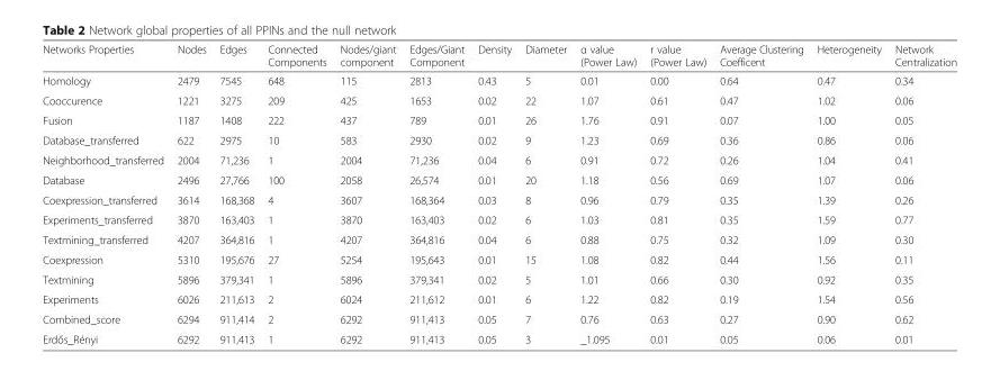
<table><thead><tr><td>Networks Properties</td><td>Nodes</td><td>Edges</td><td>Connected Components</td><td>Nodes/giant component</td><td>Edges/Giant Component</td><td>Density</td><td>Diameter</td><td>α value (Power Law)</td><td>r value (Power Law)</td><td>Average Clustering Coefficent</td><td>Heterogeneity</td><td>Network Centralization</td></tr></thead><tbody><tr><td>Homology</td><td>2479</td><td>7545</td><td>648</td><td>115</td><td>2813</td><td>0.43</td><td>5</td><td>0.01</td><td>0.00</td><td>0.64</td><td>0.47</td><td>0.34</td></tr><tr><td>Cooccurence</td><td>1221</td><td>3275</td><td>209</td><td>425</td><td>1653</td><td>0.02</td><td>22</td><td>1.07</td><td>0.61</td><td>0.47</td><td>1.02</td><td>0.06</td></tr><tr><td>Fusion</td><td>1187</td><td>1408</td><td>222</td><td>437</td><td>789</td><td>0.01</td><td>26</td><td>1.76</td><td>0.91</td><td>0.07</td><td>1.00</td><td>0.05</td></tr><tr><td>Database_transferred</td><td>622</td><td>2975</td><td>10</td><td>583</td><td>2930</td><td>0.02</td><td>9</td><td>1.23</td><td>0.69</td><td>0.36</td><td>0.86</td><td>0.06</td></tr><tr><td>Neighborhood_transferred</td><td>2004</td><td>71,236</td><td>1</td><td>2004</td><td>71,236</td><td>0.04</td><td>6</td><td>0.91</td><td>0.72</td><td>0.26</td><td>1.04</td><td>0.41</td></tr><tr><td>Database</td><td>2496</td><td>27,766</td><td>100</td><td>2058</td><td>26,574</td><td>0.01</td><td>20</td><td>1.18</td><td>0.56</td><td>0.69</td><td>1.07</td><td>0.06</td></tr><tr><td>Coexpression_transferred</td><td>3614</td><td>168,368</td><td>4</td><td>3607</td><td>168,364</td><td>0.03</td><td>8</td><td>0.96</td><td>0.79</td><td>0.35</td><td>1.39</td><td>0.26</td></tr><tr><td>Experiments_transferred</td><td>3870</td><td>163,403</td><td>1</td><td>3870</td><td>163,403</td><td>0.02</td><td>6</td><td>1.03</td><td>0.81</td><td>0.35</td><td>1.59</td><td>0.77</td></tr><tr><td>Textmining_transferred</td><td>4207</td><td>364,816</td><td>1</td><td>4207</td><td>364,816</td><td>0.04</td><td>6</td><td>0.88</td><td>0.75</td><td>0.32</td><td>1.09</td><td>0.30</td></tr><tr><td>Coexpression</td><td>5310</td><td>195,676</td><td>27</td><td>5254</td><td>195,643</td><td>0.01</td><td>15</td><td>1.08</td><td>0.82</td><td>0.44</td><td>1.56</td><td>0.11</td></tr><tr><td>Textmining</td><td>5896</td><td>379,341</td><td>1</td><td>5896</td><td>379,341</td><td>0.02</td><td>5</td><td>1.01</td><td>0.66</td><td>0.30</td><td>0.92</td><td>0.35</td></tr><tr><td>Experiments</td><td>6026</td><td>211,613</td><td>2</td><td>6024</td><td>211,612</td><td>0.01</td><td>6</td><td>1.22</td><td>0.82</td><td>0.19</td><td>1.54</td><td>0.56</td></tr><tr><td>Combined_score</td><td>6294</td><td>911,414</td><td>2</td><td>6292</td><td>911,413</td><td>0.05</td><td>7</td><td>0.76</td><td>0.63</td><td>0.27</td><td>0.90</td><td>0.62</td></tr><tr><td>Erdős_Rényi</td><td>6292</td><td>911,413</td><td>1</td><td>6292</td><td>911,413</td><td>0.05</td><td>3</td><td>_1.095</td><td>0.01</td><td>0.05</td><td>0.06</td><td>0.01</td></tr></tbody></table>